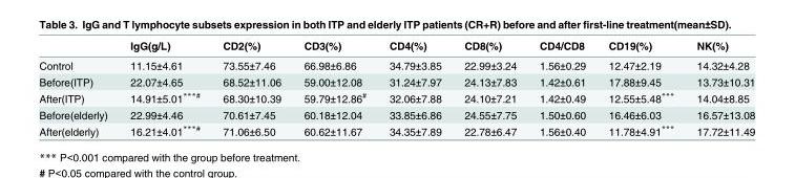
<table><thead><tr><td></td><td>IgG(g/L)</td><td>CD2(%)</td><td>CD3(%)</td><td>CD4(%)</td><td>CD8(%)</td><td>CD4/CD8</td><td>CD19(%)</td><td>NK(%)</td></tr></thead><tbody><tr><td>Control</td><td>11.15±4.61</td><td>73.55±7.46</td><td>66.98±6.86</td><td>34.79±3.85</td><td>22.99±3.24</td><td>1.56±0.29</td><td>12.47±2.19</td><td>14.32±4.28</td></tr><tr><td>Before(ITP)</td><td>22.07±4.65</td><td>68.52±11.06</td><td>59.00±12.08</td><td>31.24±7.97</td><td>24.13±7.83</td><td>1.42±0.61</td><td>17.88±9.45</td><td>13.73±10.31</td></tr><tr><td>After(ITP)</td><td>14.91±5.01<sup>***#</sup></td><td>68.30±10.39</td><td>59.79±12.86<sup>#</sup></td><td>32.06±7.88</td><td>24.10±7.21</td><td>1.42±0.49</td><td>12.55±5.48***</td><td>14.04±8.85</td></tr><tr><td>Before(elderly)</td><td>22.99±4.46</td><td>70.61±7.45</td><td>60.18±12.04</td><td>33.85±6.86</td><td>24.55±7.75</td><td>1.50±0.60</td><td>16.46±6.03</td><td>16.57±13.08</td></tr><tr><td>After(elderly)</td><td>16.21±4.01<sup>***#</sup></td><td>71.06±6.50</td><td>60.62±11.67</td><td>34.35±7.89</td><td>22.78±6.47</td><td>1.56±0.40</td><td>11.78±4.91***</td><td>17.72±11.49</td></tr></tbody></table>